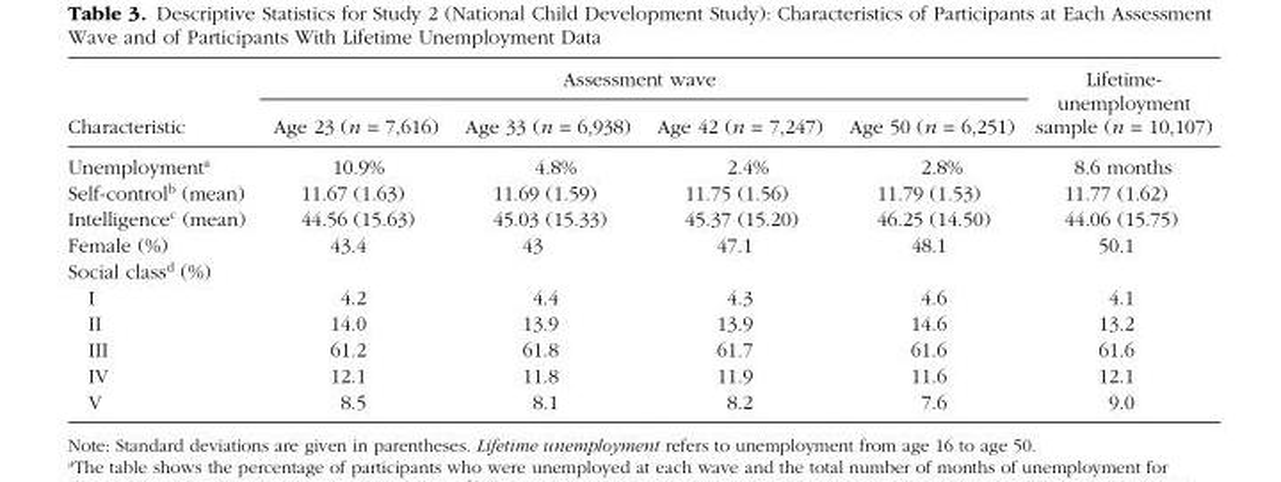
<table><thead><tr><td rowspan="2">Characteristic</td><td colspan="4">Assessment wave</td><td rowspan="2">Lifetime- unemployment sample (n = 10,107)</td></tr><tr><td>Age 23 (n = 7,616)</td><td>Age 33 (n = 6,938)</td><td>Age 42 (n = 7,247)</td><td>Age 50 (n = 6,251)</td></tr></thead><tbody><tr><td>Unemployment<sup>a</sup></td><td>10.9%</td><td>4.8%</td><td>2.4%</td><td>2.8%</td><td>8.6 months</td></tr><tr><td>Self-control<sup>b</sup> (mean)</td><td>11.67 (1.63)</td><td>11.69 (1.59)</td><td>11.75 (1.56)</td><td>11.79 (1.53)</td><td>11.77 (1.62)</td></tr><tr><td>Intelligence<sup>c</sup> (mean)</td><td>44.56 (15.63)</td><td>45.03 (15.33)</td><td>45.37 (15.20)</td><td>46.25 (14.50)</td><td>44.06 (15.75)</td></tr><tr><td>Female (%)</td><td>43.4</td><td>43</td><td>47.1</td><td>48.1</td><td>50.1</td></tr><tr><td colspan="6">Social class<sup>d</sup> (%)</td></tr><tr><td>I</td><td>4.2</td><td>4.4</td><td>4.3</td><td>4.6</td><td>4.1</td></tr><tr><td>II</td><td>14.0</td><td>13.9</td><td>13.9</td><td>14.6</td><td>13.2</td></tr><tr><td>III</td><td>61.2</td><td>61.8</td><td>61.7</td><td>61.6</td><td>61.6</td></tr><tr><td>IV</td><td>12.1</td><td>11.8</td><td>11.9</td><td>11.6</td><td>12.1</td></tr><tr><td>V</td><td>8.5</td><td>8.1</td><td>8.2</td><td>7.6</td><td>9.0</td></tr></tbody></table>